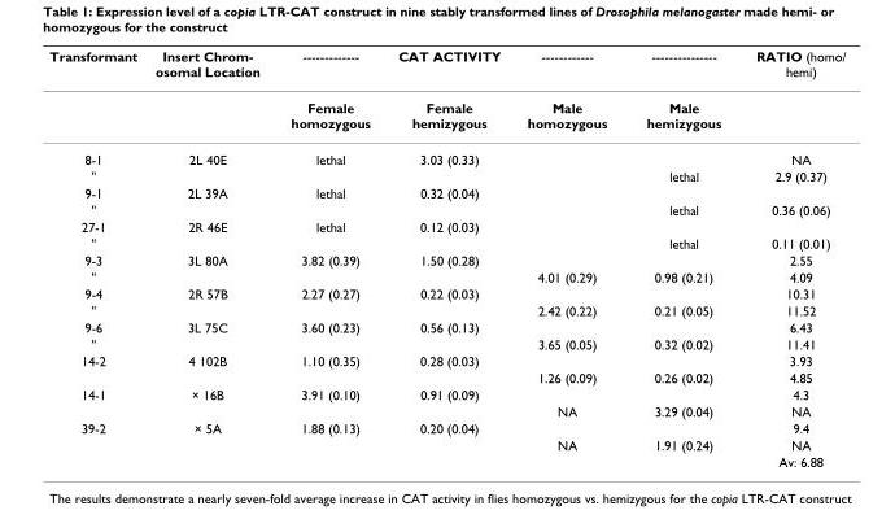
<table><thead><tr><td>Transformant</td><td>Insert Chrom- osomal Location</td><td>-------------</td><td>CAT ACTIVITY</td><td>------------</td><td>---------------</td><td>RATIO (homo/ hemi)</td></tr></thead><tbody><tr><td></td><td></td><td>Female homozygous</td><td>Female hemizygous</td><td>Male homozygous</td><td>Male hemizygous</td><td></td></tr><tr><td>8-1</td><td>2L 40E</td><td>lethal</td><td>3.03 (0.33)</td><td></td><td></td><td>NA</td></tr><tr><td>&quot;</td><td></td><td></td><td></td><td></td><td>lethal</td><td>2.9 (0.37)</td></tr><tr><td>9-1</td><td>2L 39A</td><td>lethal</td><td>0.32 (0.04)</td><td></td><td></td><td></td></tr><tr><td>&quot;</td><td></td><td></td><td></td><td></td><td>lethal</td><td>0.36 (0.06)</td></tr><tr><td>27-1</td><td>2R 46E</td><td>lethal</td><td>0.12 (0.03)</td><td></td><td></td><td></td></tr><tr><td>&quot;</td><td></td><td></td><td></td><td></td><td>lethal</td><td>0.11 (0.01)</td></tr><tr><td>9-3</td><td>3L 80A</td><td>3.82 (0.39)</td><td>1.50 (0.28)</td><td></td><td></td><td>2.55</td></tr><tr><td>&quot;</td><td></td><td></td><td></td><td>4.01 (0.29)</td><td>0.98 (0.21)</td><td>4.09</td></tr><tr><td>9-4</td><td>2R 57B</td><td>2.27 (0.27)</td><td>0.22 (0.03)</td><td></td><td></td><td>10.31</td></tr><tr><td>&quot;</td><td></td><td></td><td></td><td>2.42 (0.22)</td><td>0.21 (0.05)</td><td>11.52</td></tr><tr><td>9-6</td><td>3L 75C</td><td>3.60 (0.23)</td><td>0.56 (0.13)</td><td></td><td></td><td>6.43</td></tr><tr><td>&quot;</td><td></td><td></td><td></td><td>3.65 (0.05)</td><td>0.32 (0.02)</td><td>11.41</td></tr><tr><td rowspan="2">14-2</td><td>4 102B</td><td>1.10 (0.35)</td><td>0.28 (0.03)</td><td></td><td></td><td>3.93</td></tr><tr><td></td><td></td><td></td><td>1.26 (0.09)</td><td>0.26 (0.02)</td><td>4.85</td></tr><tr><td rowspan="2">14-1</td><td>× 16B</td><td>3.91 (0.10)</td><td>0.91 (0.09)</td><td></td><td></td><td>4.3</td></tr><tr><td></td><td></td><td></td><td>NA</td><td>3.29 (0.04)</td><td>NA</td></tr><tr><td rowspan="3">39-2</td><td>× 5A</td><td>1.88 (0.13)</td><td>0.20 (0.04)</td><td></td><td></td><td>9.4</td></tr><tr><td></td><td></td><td></td><td>NA</td><td>1.91 (0.24)</td><td>NA</td></tr><tr><td></td><td></td><td></td><td></td><td></td><td>Av: 6.88</td></tr></tbody></table>